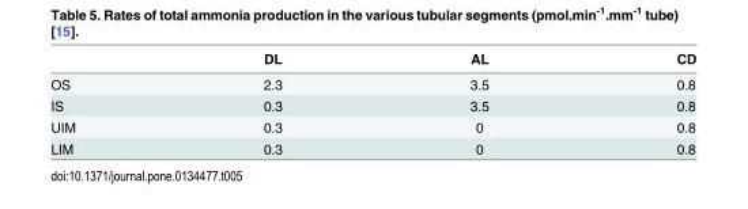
<table><thead><tr><td></td><td>DL</td><td>AL</td><td>CD</td></tr></thead><tbody><tr><td>OS</td><td>2.3</td><td>3.5</td><td>0.8</td></tr><tr><td>IS</td><td>0.3</td><td>3.5</td><td>0.8</td></tr><tr><td>UIM</td><td>0.3</td><td>0</td><td>0.8</td></tr><tr><td>LIM</td><td>0.3</td><td>0</td><td>0.8</td></tr></tbody></table>